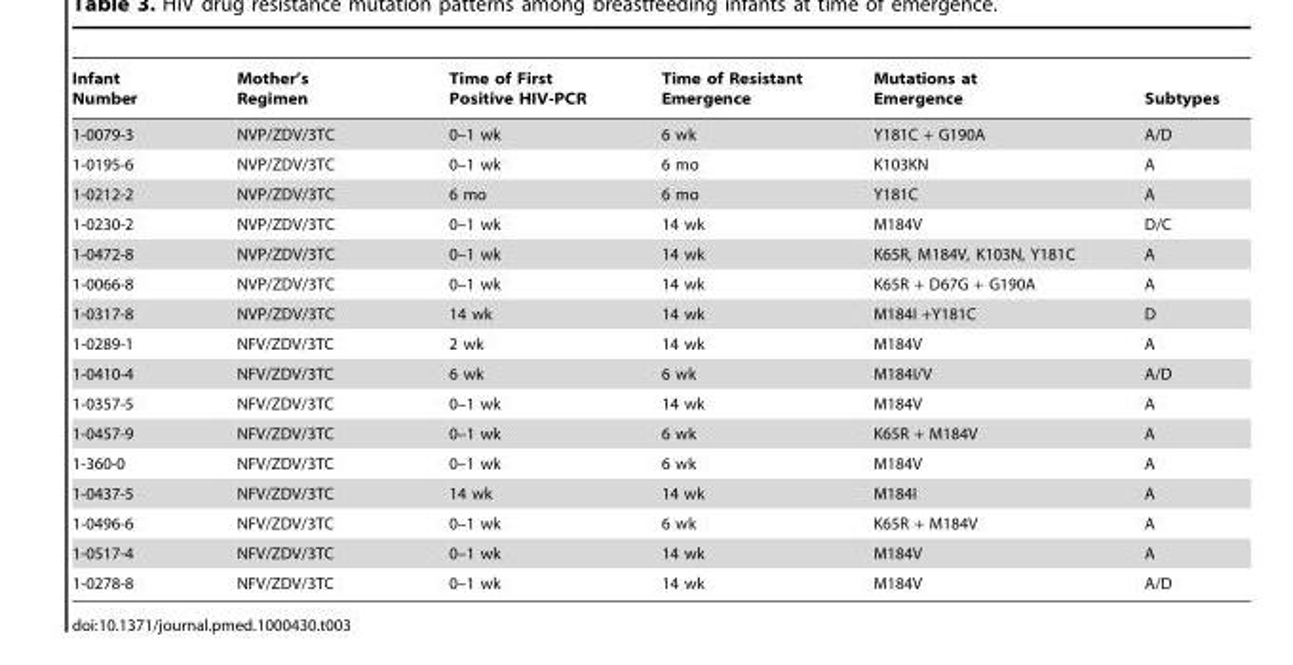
<table><thead><tr><td>Infant Number</td><td>Mother’s Regimen</td><td>Time of First Positive HIV-PCR</td><td>Time of Resistant Emergence</td><td>Mutations at Emergence</td><td>Subtypes</td></tr></thead><tbody><tr><td>1-0079-3</td><td>NVP/ZDV/3TC</td><td>0–1 wk</td><td>6 wk</td><td>Y181C + G190A</td><td>A/D</td></tr><tr><td>1-0195-6</td><td>NVP/ZDV/3TC</td><td>0–1 wk</td><td>6 mo</td><td>K103KN</td><td>A</td></tr><tr><td>1-0212-2</td><td>NVP/ZDV/3TC</td><td>6 mo</td><td>6 mo</td><td>Y181C</td><td>A</td></tr><tr><td>1-0230-2</td><td>NVP/ZDV/3TC</td><td>0–1 wk</td><td>14 wk</td><td>M184V</td><td>D/C</td></tr><tr><td>1-0472-8</td><td>NVP/ZDV/3TC</td><td>0–1 wk</td><td>14 wk</td><td>K65R, M184V, K103N, Y181C</td><td>A</td></tr><tr><td>1-0066-8</td><td>NVP/ZDV/3TC</td><td>0–1 wk</td><td>14 wk</td><td>K65R + D67G + G190A</td><td>A</td></tr><tr><td>1-0317-8</td><td>NVP/ZDV/3TC</td><td>14 wk</td><td>14 wk</td><td>M184I +Y181C</td><td>D</td></tr><tr><td>1-0289-1</td><td>NFV/ZDV/3TC</td><td>2 wk</td><td>14 wk</td><td>M184V</td><td>A</td></tr><tr><td>1-0410-4</td><td>NFV/ZDV/3TC</td><td>6 wk</td><td>6 wk</td><td>M184I/V</td><td>A/D</td></tr><tr><td>1-0357-5</td><td>NFV/ZDV/3TC</td><td>0–1 wk</td><td>14 wk</td><td>M184V</td><td>A</td></tr><tr><td>1-0457-9</td><td>NFV/ZDV/3TC</td><td>0–1 wk</td><td>6 wk</td><td>K65R + M184V</td><td>A</td></tr><tr><td>1-360-0</td><td>NFV/ZDV/3TC</td><td>0–1 wk</td><td>6 wk</td><td>M184V</td><td>A</td></tr><tr><td>1-0437-5</td><td>NFV/ZDV/3TC</td><td>14 wk</td><td>14 wk</td><td>M184I</td><td>A</td></tr><tr><td>1-0496-6</td><td>NFV/ZDV/3TC</td><td>0–1 wk</td><td>6 wk</td><td>K65R + M184V</td><td>A</td></tr><tr><td>1-0517-4</td><td>NFV/ZDV/3TC</td><td>0–1 wk</td><td>14 wk</td><td>M184V</td><td>A</td></tr><tr><td>1-0278-8</td><td>NFV/ZDV/3TC</td><td>0–1 wk</td><td>14 wk</td><td>M184V</td><td>A/D</td></tr></tbody></table>